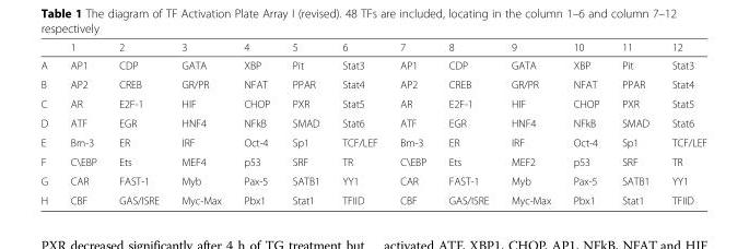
<table><thead><tr><td></td><td>1</td><td>2</td><td>3</td><td>4</td><td>5</td><td>6</td><td>7</td><td>8</td><td>9</td><td>10</td><td>11</td><td>12</td></tr></thead><tbody><tr><td>A</td><td>AP1</td><td>CDP</td><td>GATA</td><td>XBP</td><td>Pit</td><td>Stat3</td><td>AP1</td><td>CDP</td><td>GATA</td><td>XBP</td><td>Pit</td><td>Stat3</td></tr><tr><td>B</td><td>AP2</td><td>CREB</td><td>GR/PR</td><td>NFAT</td><td>PPAR</td><td>Stat4</td><td>AP2</td><td>CREB</td><td>GR/PR</td><td>NFAT</td><td>PPAR</td><td>Stat4</td></tr><tr><td>C</td><td>AR</td><td>E2F-1</td><td>HIF</td><td>CHOP</td><td>PXR</td><td>Stat5</td><td>AR</td><td>E2F-1</td><td>HIF</td><td>CHOP</td><td>PXR</td><td>Stat5</td></tr><tr><td>D</td><td>ATF</td><td>EGR</td><td>HNF4</td><td>NFkB</td><td>SMAD</td><td>Stat6</td><td>ATF</td><td>EGR</td><td>HNF4</td><td>NFkB</td><td>SMAD</td><td>Stat6</td></tr><tr><td>E</td><td>Brn-3</td><td>ER</td><td>IRF</td><td>Oct-4</td><td>Sp1</td><td>TCF/LEF</td><td>Bm-3</td><td>ER</td><td>IRF</td><td>Oct-4</td><td>Sp1</td><td>TCF/LEF</td></tr><tr><td>F</td><td>C\EBP</td><td>Ets</td><td>MEF4</td><td>p53</td><td>SRF</td><td>TR</td><td>C\EBP</td><td>Ets</td><td>MEF2</td><td>p53</td><td>SRF</td><td>TR</td></tr><tr><td>G</td><td>CAR</td><td>FAST-1</td><td>Myb</td><td>Pax-5</td><td>SATB1</td><td>YY1</td><td>CAR</td><td>FAST-1</td><td>Myb</td><td>Pax-5</td><td>SATB1</td><td>YY1</td></tr><tr><td>H</td><td>CBF</td><td>GAS/ISRE</td><td>Myc-Max</td><td>Pbx1</td><td>Stat1</td><td>TFIID</td><td>CBF</td><td>GAS/ISRE</td><td>Myc-Max</td><td>Pbx1</td><td>Stat1</td><td>TFIID</td></tr></tbody></table>